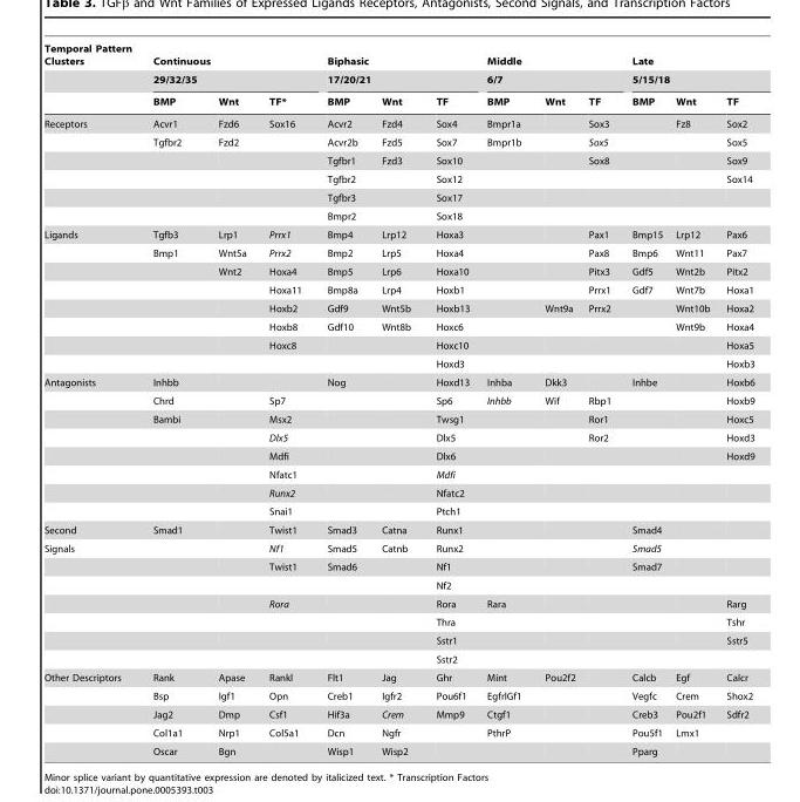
<table><thead><tr><td rowspan="3">Temporal Pattern Clusters</td><td rowspan="2" colspan="3">Continuous 29/32/35</td><td rowspan="2" colspan="3">Biphasic 17/20/21</td><td rowspan="2" colspan="3">Middle 6/7</td><td rowspan="2" colspan="3">Late 5/15/18</td></tr><tr></tr><tr><td>BMP</td><td>Wnt</td><td>TF*</td><td>BMP</td><td>Wnt</td><td>TF</td><td>BMP</td><td>Wnt</td><td>TF</td><td>BMP</td><td>Wnt</td><td>TF</td></tr></thead><tbody><tr><td rowspan="6">Receptors</td><td>Acvr1</td><td>Fzd6</td><td>Sox16</td><td>Acvr2</td><td>Fzd4</td><td>Sox4</td><td>Bmpr1a</td><td></td><td>Sox3</td><td></td><td>Fz8</td><td>Sox2</td></tr><tr><td>Tgfbr2</td><td>Fzd2</td><td></td><td>Acvr2b</td><td>Fzd5</td><td>Sox7</td><td>Bmpr1b</td><td></td><td>Sox5</td><td></td><td></td><td>Sox5</td></tr><tr><td></td><td></td><td></td><td>Tgfbr1</td><td>Fzd3</td><td>Sox10</td><td></td><td></td><td>Sox8</td><td></td><td></td><td>Sox9</td></tr><tr><td></td><td></td><td></td><td>Tgfbr2</td><td></td><td>Sox12</td><td></td><td></td><td></td><td></td><td></td><td>Sox14</td></tr><tr><td></td><td></td><td></td><td>Tgfbr3</td><td></td><td>Sox17</td><td></td><td></td><td></td><td></td><td></td><td></td></tr><tr><td></td><td></td><td></td><td>Bmpr2</td><td></td><td>Sox18</td><td></td><td></td><td></td><td></td><td></td><td></td></tr><tr><td rowspan="8">Ligands</td><td>Tgfb3</td><td>Lrp1</td><td>Prrx1</td><td>Bmp4</td><td>Lrp12</td><td>Hoxa3</td><td></td><td></td><td>Pax1</td><td>Bmp15</td><td>Lrp12</td><td>Pax6</td></tr><tr><td>Bmp1</td><td>Wnt5a</td><td>Prrx2</td><td>Bmp2</td><td>Lrp5</td><td>Hoxa4</td><td></td><td></td><td>Pax8</td><td>Bmp6</td><td>Wnt11</td><td>Pax7</td></tr><tr><td></td><td>Wnt2</td><td>Hoxa4</td><td>Bmp5</td><td>Lrp6</td><td>Hoxa10</td><td></td><td></td><td>Pitx3</td><td>Gdf5</td><td>Wnt2b</td><td>Pitx2</td></tr><tr><td></td><td></td><td>Hoxa11</td><td>Bmp8a</td><td>Lrp4</td><td>Hoxb1</td><td></td><td></td><td>Prrx1</td><td>Gdf7</td><td>Wnt7b</td><td>Hoxa1</td></tr><tr><td></td><td></td><td>Hoxb2</td><td>Gdf9</td><td>Wnt5b</td><td>Hoxb13</td><td></td><td>Wnt9a</td><td>Prrx2</td><td></td><td>Wnt10b</td><td>Hoxa2</td></tr><tr><td></td><td></td><td>Hoxb8</td><td>Gdf10</td><td>Wnt8b</td><td>Hoxc6</td><td></td><td></td><td></td><td></td><td>Wnt9b</td><td>Hoxa4</td></tr><tr><td></td><td></td><td>Hoxc8</td><td></td><td></td><td>Hoxc10</td><td></td><td></td><td></td><td></td><td></td><td>Hoxa5</td></tr><tr><td></td><td></td><td></td><td></td><td></td><td>Hoxd3</td><td></td><td></td><td></td><td></td><td></td><td>Hoxb3</td></tr><tr><td rowspan="8">Antagonists</td><td>Inhbb</td><td></td><td></td><td>Nog</td><td></td><td>Hoxd13</td><td>Inhba</td><td>Dkk3</td><td></td><td>Inhbe</td><td></td><td>Hoxb6</td></tr><tr><td>Chrd</td><td></td><td>Sp7</td><td></td><td></td><td>Sp6</td><td>Inhbb</td><td>Wif</td><td>Rbp1</td><td></td><td></td><td>Hoxb9</td></tr><tr><td>Bambi</td><td></td><td>Msx2</td><td></td><td></td><td>Twsg1</td><td></td><td></td><td>Ror1</td><td></td><td></td><td>Hoxc5</td></tr><tr><td></td><td></td><td>Dlx5</td><td></td><td></td><td>Dlx5</td><td></td><td></td><td>Ror2</td><td></td><td></td><td>Hoxd3</td></tr><tr><td></td><td></td><td>Mdfi</td><td></td><td></td><td>Dlx6</td><td></td><td></td><td></td><td></td><td></td><td>Hoxd9</td></tr><tr><td></td><td></td><td>Nfatc1</td><td></td><td></td><td>Mdfi</td><td></td><td></td><td></td><td></td><td></td><td></td></tr><tr><td></td><td></td><td>Runx2</td><td></td><td></td><td>Nfatc2</td><td></td><td></td><td></td><td></td><td></td><td></td></tr><tr><td></td><td></td><td>Snai1</td><td></td><td></td><td>Ptch1</td><td></td><td></td><td></td><td></td><td></td><td></td></tr><tr><td>Second</td><td>Smad1</td><td></td><td>Twist1</td><td>Smad3</td><td>Catna</td><td>Runx1</td><td></td><td></td><td></td><td>Smad4</td><td></td><td></td></tr><tr><td rowspan="7">Signals</td><td></td><td></td><td>Nf1</td><td>Smad5</td><td>Catnb</td><td>Runx2</td><td></td><td></td><td></td><td>Smad5</td><td></td><td></td></tr><tr><td></td><td></td><td>Twist1</td><td>Smad6</td><td></td><td>Nf1</td><td></td><td></td><td></td><td>Smad7</td><td></td><td></td></tr><tr><td></td><td></td><td></td><td></td><td></td><td>Nf2</td><td></td><td></td><td></td><td></td><td></td><td></td></tr><tr><td></td><td></td><td>Rora</td><td></td><td></td><td>Rora</td><td>Rara</td><td></td><td></td><td></td><td></td><td>Rarg</td></tr><tr><td></td><td></td><td></td><td></td><td></td><td>Thra</td><td></td><td></td><td></td><td></td><td></td><td>Tshr</td></tr><tr><td></td><td></td><td></td><td></td><td></td><td>Sstr1</td><td></td><td></td><td></td><td></td><td></td><td>Sstr5</td></tr><tr><td></td><td></td><td></td><td></td><td></td><td>Sstr2</td><td></td><td></td><td></td><td></td><td></td><td></td></tr><tr><td rowspan="5">Other Descriptors</td><td>Rank</td><td>Apase</td><td>Rankl</td><td>Flt1</td><td>Jag</td><td>Ghr</td><td>Mint</td><td>Pou2f2</td><td></td><td>Calcb</td><td>Egf</td><td>Calcr</td></tr><tr><td>Bsp</td><td>Igf1</td><td>Opn</td><td>Creb1</td><td>Igfr2</td><td>Pou6f1</td><td>EgfrlGf1</td><td></td><td></td><td>Vegfc</td><td>Crem</td><td>Shox2</td></tr><tr><td>Jag2</td><td>Dmp</td><td>Csf1</td><td>Hif3a</td><td>Crem</td><td>Mmp9</td><td>Ctgf1</td><td></td><td></td><td>Creb3</td><td>Pou2f1</td><td>Sdfr2</td></tr><tr><td>Col1a1</td><td>Nrp1</td><td>Col5a1</td><td>Dcn</td><td>Ngfr</td><td></td><td>PthrP</td><td></td><td></td><td>Pou5f1</td><td>Lmx1</td><td></td></tr><tr><td>Oscar</td><td>Bgn</td><td></td><td>Wisp1</td><td>Wisp2</td><td></td><td></td><td></td><td></td><td>Pparg</td><td></td><td></td></tr></tbody></table>